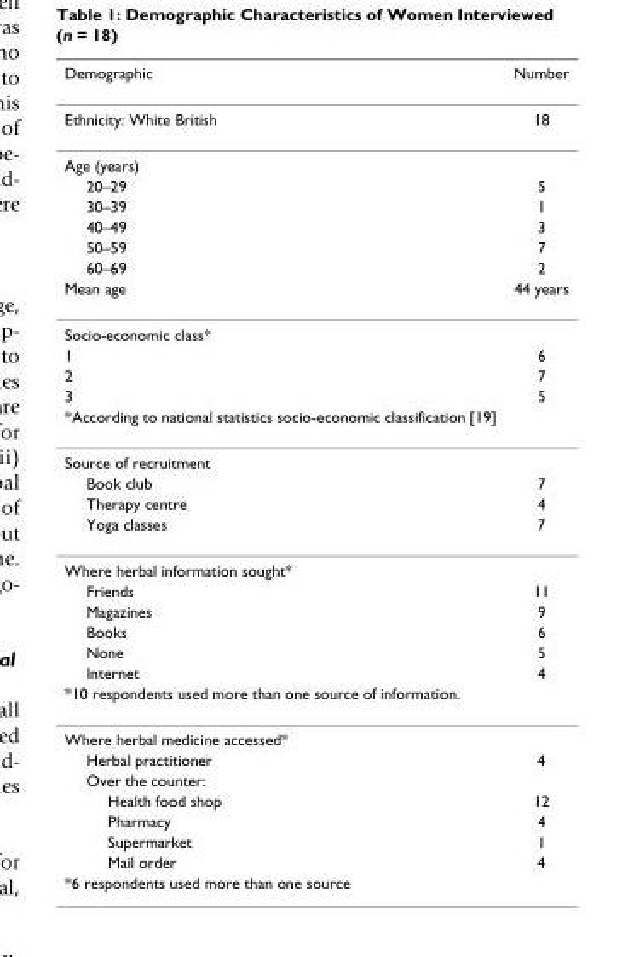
<table><thead><tr><td>Demographic</td><td>Number</td></tr></thead><tbody><tr><td>Ethnicity: White British</td><td>18</td></tr><tr><td colspan="2">Age (years)</td></tr><tr><td>20–29</td><td>5</td></tr><tr><td>30–39</td><td>1</td></tr><tr><td>40–49</td><td>3</td></tr><tr><td>50–59</td><td>7</td></tr><tr><td>60–69</td><td>2</td></tr><tr><td>Mean age</td><td>44 years</td></tr><tr><td colspan="2">Socio-economic class*</td></tr><tr><td>1</td><td>6</td></tr><tr><td>2</td><td>7</td></tr><tr><td>3</td><td>5</td></tr><tr><td colspan="2">*According to national statistics socio-economic classification [19]</td></tr><tr><td colspan="2">Source of recruitment</td></tr><tr><td>Book club</td><td>7</td></tr><tr><td>Therapy centre</td><td>4</td></tr><tr><td>Yoga classes</td><td>7</td></tr><tr><td colspan="2">Where herbal information sought*</td></tr><tr><td>Friends</td><td>11</td></tr><tr><td>Magazines</td><td>9</td></tr><tr><td>Books</td><td>6</td></tr><tr><td>None</td><td>5</td></tr><tr><td>Internet</td><td>4</td></tr><tr><td colspan="2">*10 respondents used more than one source of information.</td></tr><tr><td colspan="2">Where herbal medicine accessed*</td></tr><tr><td>Herbal practitioner</td><td>4</td></tr><tr><td colspan="2">Over the counter:</td></tr><tr><td>Health food shop</td><td>12</td></tr><tr><td>Pharmacy</td><td>4</td></tr><tr><td>Supermarket</td><td>1</td></tr><tr><td>Mail order</td><td>4</td></tr><tr><td>*6 respondents used more than one source</td><td></td></tr></tbody></table>